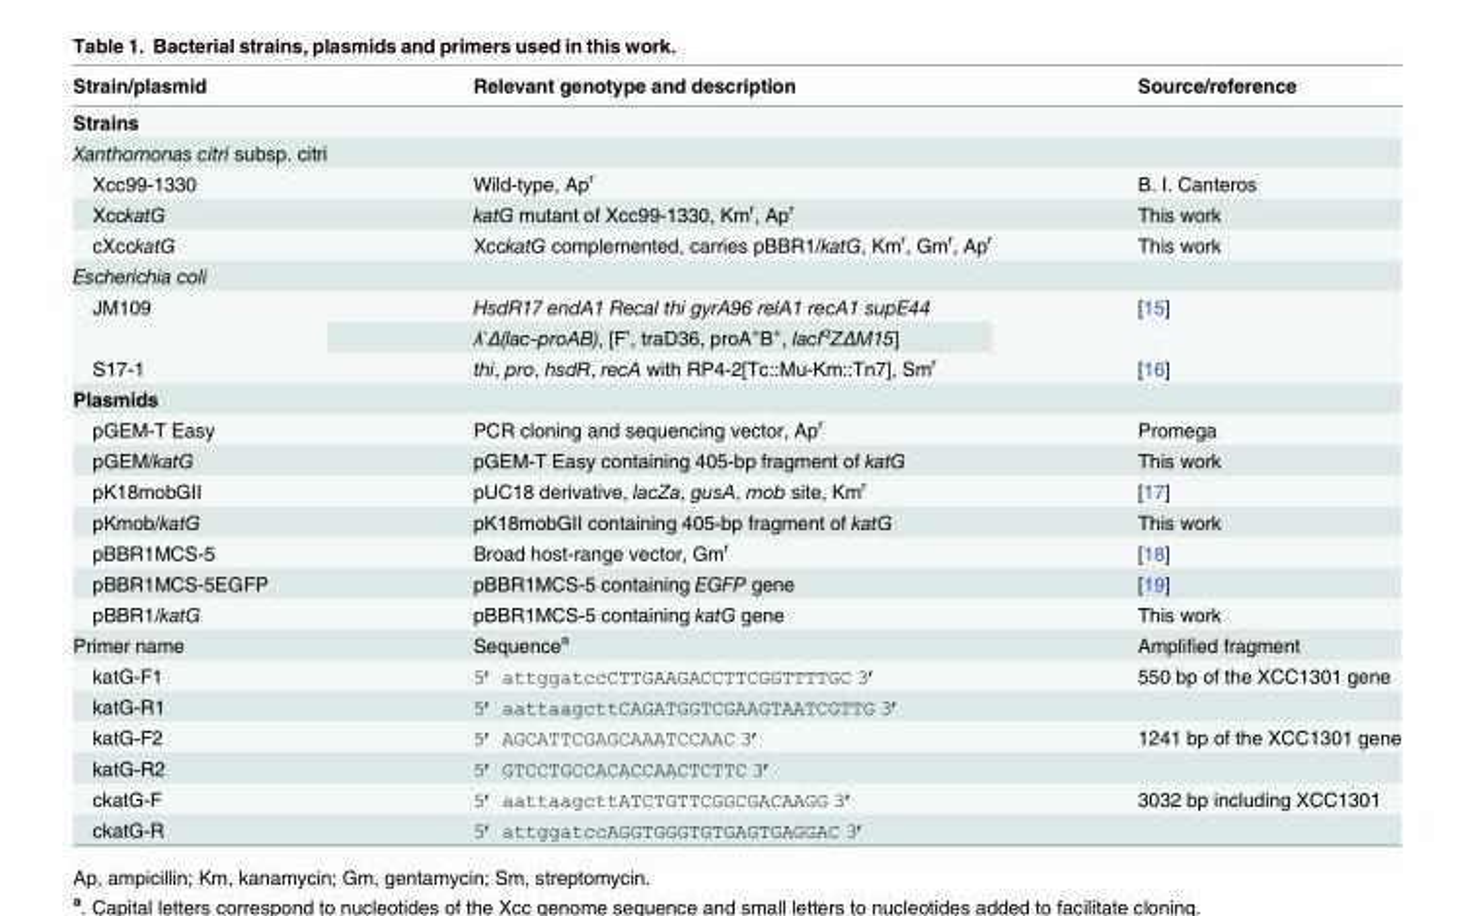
<table><thead><tr><td>Strain/plasmid</td><td>Relevant genotype and description</td><td>Source/reference</td></tr></thead><tbody><tr><td colspan="3">Strains</td></tr><tr><td colspan="3">Xanthomonas citri subsp. citri</td></tr><tr><td>Xcc99-1330</td><td>Wild-type, Ap<sup>r</sup></td><td>B. I. Canteros</td></tr><tr><td>XcckatG</td><td>katG mutant of Xcc99-1330, Km<sup>r</sup>, Ap<sup>r</sup></td><td>This work</td></tr><tr><td>cXcckatG</td><td>XcckatG complemented, carries pBBR1/katG, Km<sup>r</sup>, Gm<sup>r</sup>, Ap<sup>r</sup></td><td>This work</td></tr><tr><td colspan="3">Escherichia coli</td></tr><tr><td rowspan="2">JM109</td><td>HsdR17 endA1 Recal thi gyrA96 relA1 recA1 supE44</td><td rowspan="2">[15]</td></tr><tr><td>λ<sup>-</sup>Δ(lac-proAB), [F’, traD36, proA<sup>+</sup>B<sup>+</sup>, lacI<sup>q</sup>ZΔM15]</td></tr><tr><td>S17-1</td><td>thi, pro, hsdR, recA with RP4-2[Tc::Mu-Km::Tn7], Sm<sup>r</sup></td><td>[16]</td></tr><tr><td colspan="3">Plasmids</td></tr><tr><td>pGEM-T Easy</td><td>PCR cloning and sequencing vector, Ap<sup>r</sup></td><td>Promega</td></tr><tr><td>pGEM/katG</td><td>pGEM-T Easy containing 405-bp fragment of katG</td><td>This work</td></tr><tr><td>pK18mobGII</td><td>pUC18 derivative, lacZa, gusA, mob site, Km<sup>r</sup></td><td>[17]</td></tr><tr><td>pKmob/katG</td><td>pK18mobGII containing 405-bp fragment of katG</td><td>This work</td></tr><tr><td>pBBR1MCS-5</td><td>Broad host-range vector, Gm<sup>r</sup></td><td>[18]</td></tr><tr><td>pBBR1MCS-5EGFP</td><td>pBBR1MCS-5 containing EGFP gene</td><td>[19]</td></tr><tr><td>pBBR1/katG</td><td>pBBR1MCS-5 containing katG gene</td><td>This work</td></tr><tr><td>Primer name</td><td>Sequence<sup>a</sup></td><td>Amplified fragment</td></tr><tr><td>katG-F1</td><td>5’ attggatccCTTGAAGACCTTCGGTTTTGC 3’</td><td>550 bp of the XCC1301 gene</td></tr><tr><td>katG-R1</td><td>5’ aattaagcttCAGATGGTCGAAGTAATCGTTG 3’</td><td></td></tr><tr><td>katG-F2</td><td>5’ AGCATTCGAGCAAATCCAAC 3’</td><td>1241 bp of the XCC1301 gene</td></tr><tr><td>katG-R2</td><td>5’ GTCCTGCCACACCAACTCTTC 3’</td><td></td></tr><tr><td>ckatG-F</td><td>5’ aattaagcttATCTGTTCGGCGACAAGG 3’</td><td>3032 bp including XCC1301</td></tr><tr><td>ckatG-R</td><td>5’ attggatccAGGTGGGTGTGAGTGAGGAC 3’</td><td></td></tr></tbody></table>